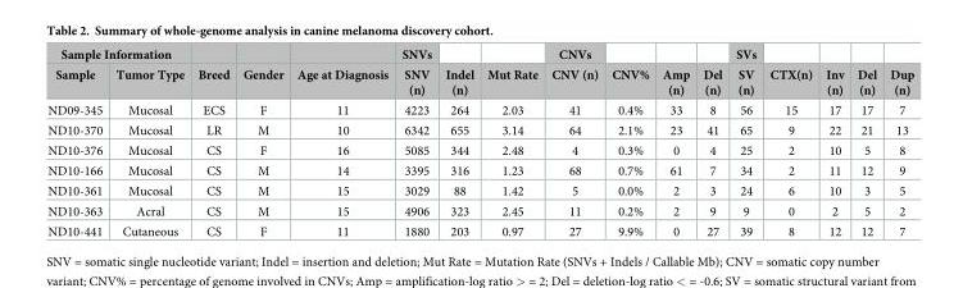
<table><thead><tr><td colspan="2">Sample Information</td><td rowspan="2">Breed</td><td rowspan="2">Gender</td><td rowspan="2">Age at Diagnosis</td><td rowspan="2">SNVs SNV (n)</td><td rowspan="2">Indel (n)</td><td rowspan="2">Mut Rate</td><td rowspan="2">CNVs CNV (n)</td><td rowspan="2">CNV%</td><td rowspan="2">Amp (n)</td><td rowspan="2">Del (n)</td><td rowspan="2">SVs SV (n)</td><td rowspan="2">CTX(n)</td><td rowspan="2">Inv (n)</td><td rowspan="2">Del (n)</td><td rowspan="2">Dup (n)</td></tr><tr><td>Sample</td><td>Tumor Type</td></tr></thead><tbody><tr><td>ND09-345</td><td>Mucosal</td><td>ECS</td><td>F</td><td>11</td><td>4223</td><td>264</td><td>2.03</td><td>41</td><td>0.4%</td><td>33</td><td>8</td><td>56</td><td>15</td><td>17</td><td>17</td><td>7</td></tr><tr><td>ND10-370</td><td>Mucosal</td><td>LR</td><td>M</td><td>10</td><td>6342</td><td>655</td><td>3.14</td><td>64</td><td>2.1%</td><td>23</td><td>41</td><td>65</td><td>9</td><td>22</td><td>21</td><td>13</td></tr><tr><td>ND10-376</td><td>Mucosal</td><td>CS</td><td>F</td><td>16</td><td>5085</td><td>344</td><td>2.48</td><td>4</td><td>0.3%</td><td>0</td><td>4</td><td>25</td><td>2</td><td>10</td><td>5</td><td>8</td></tr><tr><td>ND10-166</td><td>Mucosal</td><td>CS</td><td>M</td><td>14</td><td>3395</td><td>316</td><td>1.23</td><td>68</td><td>0.7%</td><td>61</td><td>7</td><td>34</td><td>2</td><td>11</td><td>12</td><td>9</td></tr><tr><td>ND10-361</td><td>Mucosal</td><td>CS</td><td>M</td><td>15</td><td>3029</td><td>88</td><td>1.42</td><td>5</td><td>0.0%</td><td>2</td><td>3</td><td>24</td><td>6</td><td>10</td><td>3</td><td>5</td></tr><tr><td>ND10-363</td><td>Acral</td><td>CS</td><td>M</td><td>15</td><td>4906</td><td>323</td><td>2.45</td><td>11</td><td>0.2%</td><td>2</td><td>9</td><td>9</td><td>0</td><td>2</td><td>5</td><td>2</td></tr><tr><td>ND10-441</td><td>Cutaneous</td><td>CS</td><td>F</td><td>11</td><td>1880</td><td>203</td><td>0.97</td><td>27</td><td>9.9%</td><td>0</td><td>27</td><td>39</td><td>8</td><td>12</td><td>12</td><td>7</td></tr></tbody></table>